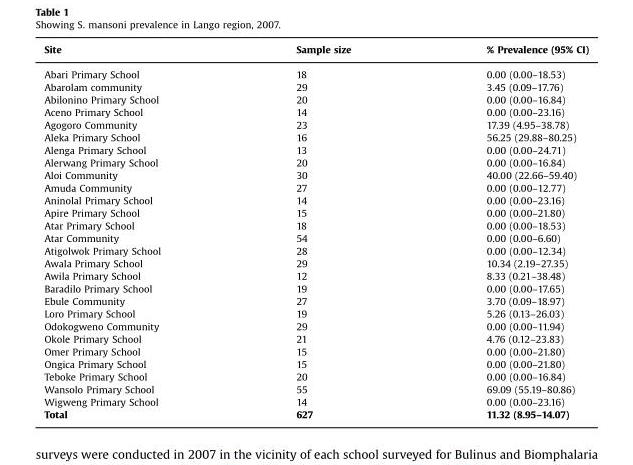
<table><thead><tr><td>Site</td><td>Sample size</td><td>% Prevalence (95% CI)</td></tr></thead><tbody><tr><td>Abari Primary School</td><td>18</td><td>0.00 (0.00–18.53)</td></tr><tr><td>Abarolam community</td><td>29</td><td>3.45 (0.09–17.76)</td></tr><tr><td>Abilonino Primary School</td><td>20</td><td>0.00 (0.00–16.84)</td></tr><tr><td>Aceno Primary School</td><td>14</td><td>0.00 (0.00–23.16)</td></tr><tr><td>Agogoro Community</td><td>23</td><td>17.39 (4.95–38.78)</td></tr><tr><td>Aleka Primary School</td><td>16</td><td>56.25 (29.88–80.25)</td></tr><tr><td>Alenga Primary School</td><td>13</td><td>0.00 (0.00–24.71)</td></tr><tr><td>Alerwang Primary School</td><td>20</td><td>0.00 (0.00–16.84)</td></tr><tr><td>Aloi Community</td><td>30</td><td>40.00 (22.66–59.40)</td></tr><tr><td>Amuda Community</td><td>27</td><td>0.00 (0.00–12.77)</td></tr><tr><td>Aninolal Primary School</td><td>14</td><td>0.00 (0.00–23.16)</td></tr><tr><td>Apire Primary School</td><td>15</td><td>0.00 (0.00–21.80)</td></tr><tr><td>Atar Primary School</td><td>18</td><td>0.00 (0.00–18.53)</td></tr><tr><td>Atar Community</td><td>54</td><td>0.00 (0.00–6.60)</td></tr><tr><td>Atigolwok Primary School</td><td>28</td><td>0.00 (0.00–12.34)</td></tr><tr><td>Awala Primary School</td><td>29</td><td>10.34 (2.19–27.35)</td></tr><tr><td>Awila Primary School</td><td>12</td><td>8.33 (0.21–38.48)</td></tr><tr><td>Baradilo Primary School</td><td>19</td><td>0.00 (0.00–17.65)</td></tr><tr><td>Ebule Community</td><td>27</td><td>3.70 (0.09–18.97)</td></tr><tr><td>Loro Primary School</td><td>19</td><td>5.26 (0.13–26.03)</td></tr><tr><td>Odokogweno Community</td><td>29</td><td>0.00 (0.00–11.94)</td></tr><tr><td>Okole Primary School</td><td>21</td><td>4.76 (0.12–23.83)</td></tr><tr><td>Omer Primary School</td><td>15</td><td>0.00 (0.00–21.80)</td></tr><tr><td>Ongica Primary School</td><td>15</td><td>0.00 (0.00–21.80)</td></tr><tr><td>Teboke Primary School</td><td>20</td><td>0.00 (0.00–16.84)</td></tr><tr><td>Wansolo Primary School</td><td>55</td><td>69.09 (55.19–80.86)</td></tr><tr><td>Wigweng Primary School</td><td>14</td><td>0.00 (0.00–23.16)</td></tr><tr><td>Total</td><td>627</td><td>11.32 (8.95–14.07)</td></tr></tbody></table>